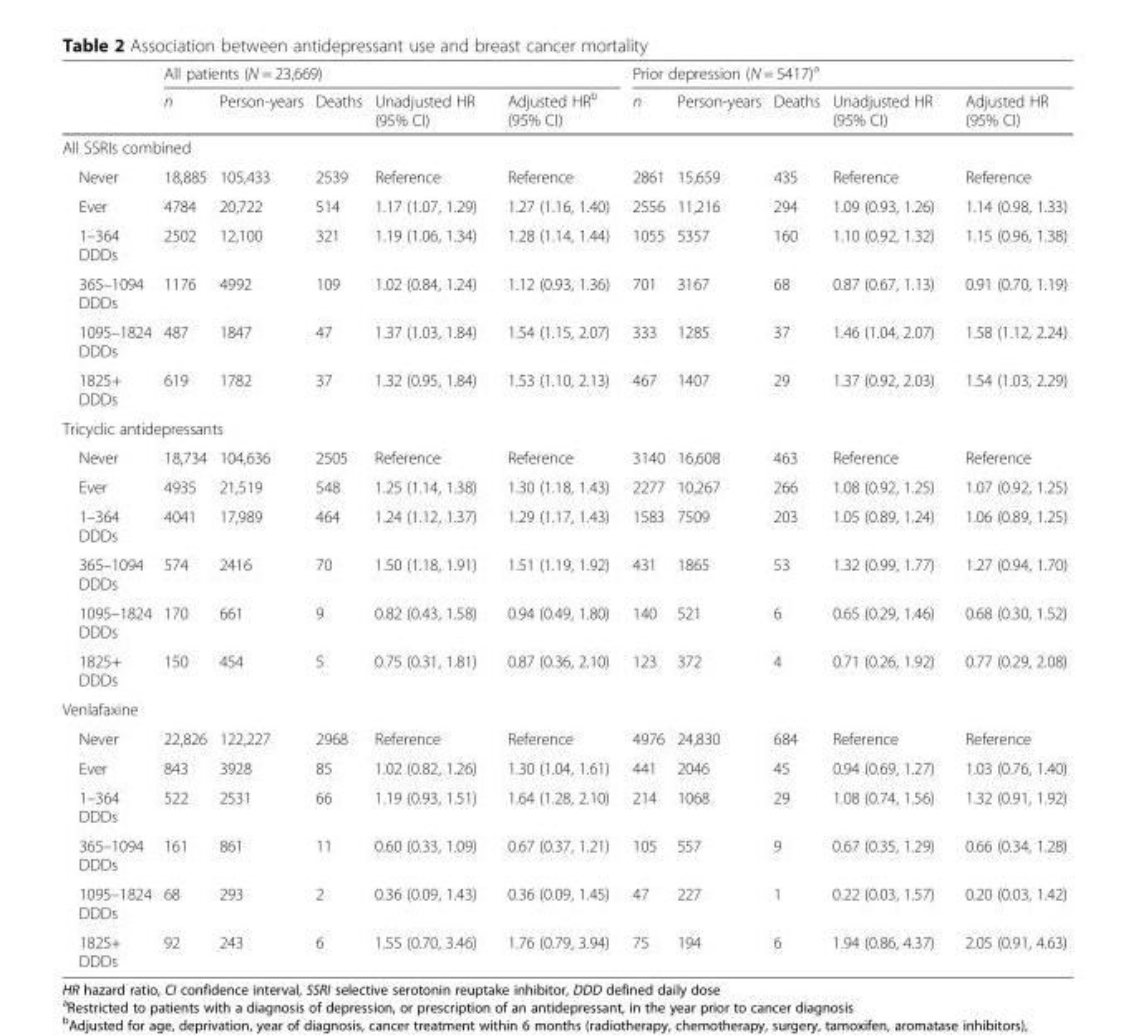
<table><thead><tr><td rowspan="2"></td><td colspan="5">All patients (N = 23,669)</td><td colspan="5">Prior depression (N = 5417)<sup>a</sup></td></tr><tr><td>n</td><td>Person-years</td><td>Deaths</td><td>Unadjusted HR (95% CI)</td><td>Adjusted HR<sup>b</sup> (95% CI)</td><td>n</td><td>Person-years</td><td>Deaths</td><td>Unadjusted HR (95% CI)</td><td>Adjusted HR (95% CI)</td></tr></thead><tbody><tr><td colspan="11">All SSRIs combined</td></tr><tr><td>Never</td><td>18,885</td><td>105,433</td><td>2539</td><td>Reference</td><td>Reference</td><td>2861</td><td>15,659</td><td>435</td><td>Reference</td><td>Reference</td></tr><tr><td>Ever</td><td>4784</td><td>20,722</td><td>514</td><td>1.17 (1.07, 1.29)</td><td>1.27 (1.16, 1.40)</td><td>2556</td><td>11,216</td><td>294</td><td>1.09 (0.93, 1.26)</td><td>1.14 (0.98, 1.33)</td></tr><tr><td>1–364 DDDs</td><td>2502</td><td>12,100</td><td>321</td><td>1.19 (1.06, 1.34)</td><td>1.28 (1.14, 1.44)</td><td>1055</td><td>5357</td><td>160</td><td>1.10 (0.92, 1.32)</td><td>1.15 (0.96, 1.38)</td></tr><tr><td>365–1094 DDDs</td><td>1176</td><td>4992</td><td>109</td><td>1.02 (0.84, 1.24)</td><td>1.12 (0.93, 1.36)</td><td>701</td><td>3167</td><td>68</td><td>0.87 (0.67, 1.13)</td><td>0.91 (0.70, 1.19)</td></tr><tr><td>1095–1824 DDDs</td><td>487</td><td>1847</td><td>47</td><td>1.37 (1.03, 1.84)</td><td>1.54 (1.15, 2.07)</td><td>333</td><td>1285</td><td>37</td><td>1.46 (1.04, 2.07)</td><td>1.58 (1.12, 2.24)</td></tr><tr><td>1825+ DDDs</td><td>619</td><td>1782</td><td>37</td><td>1.32 (0.95, 1.84)</td><td>1.53 (1.10, 2.13)</td><td>467</td><td>1407</td><td>29</td><td>1.37 (0.92, 2.03)</td><td>1.54 (1.03, 2.29)</td></tr><tr><td colspan="11">Tricyclic antidepressants</td></tr><tr><td>Never</td><td>18,734</td><td>104,636</td><td>2505</td><td>Reference</td><td>Reference</td><td>3140</td><td>16,608</td><td>463</td><td>Reference</td><td>Reference</td></tr><tr><td>Ever</td><td>4935</td><td>21,519</td><td>548</td><td>1.25 (1.14, 1.38)</td><td>1.30 (1.18, 1.43)</td><td>2277</td><td>10,267</td><td>266</td><td>1.08 (0.92, 1.25)</td><td>1.07 (0.92, 1.25)</td></tr><tr><td>1–364 DDDs</td><td>4041</td><td>17,989</td><td>464</td><td>1.24 (1.12, 1.37)</td><td>1.29 (1.17, 1.43)</td><td>1583</td><td>7509</td><td>203</td><td>1.05 (0.89, 1.24)</td><td>1.06 (0.89, 1.25)</td></tr><tr><td>365–1094 DDDs</td><td>574</td><td>2416</td><td>70</td><td>1.50 (1.18, 1.91)</td><td>1.51 (1.19, 1.92)</td><td>431</td><td>1865</td><td>53</td><td>1.32 (0.99, 1.77)</td><td>1.27 (0.94, 1.70)</td></tr><tr><td>1095–1824 DDDs</td><td>170</td><td>661</td><td>9</td><td>0.82 (0.43, 1.58)</td><td>0.94 (0.49, 1.80)</td><td>140</td><td>521</td><td>6</td><td>0.65 (0.29, 1.46)</td><td>0.68 (0.30, 1.52)</td></tr><tr><td>1825+ DDDs</td><td>150</td><td>454</td><td>5</td><td>0.75 (0.31, 1.81)</td><td>0.87 (0.36, 2.10)</td><td>123</td><td>372</td><td>4</td><td>0.71 (0.26, 1.92)</td><td>0.77 (0.29, 2.08)</td></tr><tr><td colspan="11">Venlafaxine</td></tr><tr><td>Never</td><td>22,826</td><td>122,227</td><td>2968</td><td>Reference</td><td>Reference</td><td>4976</td><td>24,830</td><td>684</td><td>Reference</td><td>Reference</td></tr><tr><td>Ever</td><td>843</td><td>3928</td><td>85</td><td>1.02 (0.82, 1.26)</td><td>1.30 (1.04, 1.61)</td><td>441</td><td>2046</td><td>45</td><td>0.94 (0.69, 1.27)</td><td>1.03 (0.76, 1.40)</td></tr><tr><td>1–364 DDDs</td><td>522</td><td>2531</td><td>66</td><td>1.19 (0.93, 1.51)</td><td>1.64 (1.28, 2.10)</td><td>214</td><td>1068</td><td>29</td><td>1.08 (0.74, 1.56)</td><td>1.32 (0.91, 1.92)</td></tr><tr><td>365–1094 DDDs</td><td>161</td><td>861</td><td>11</td><td>0.60 (0.33, 1.09)</td><td>0.67 (0.37, 1.21)</td><td>105</td><td>557</td><td>9</td><td>0.67 (0.35, 1.29)</td><td>0.66 (0.34, 1.28)</td></tr><tr><td>1095–1824 DDDs</td><td>68</td><td>293</td><td>2</td><td>0.36 (0.09, 1.43)</td><td>0.36 (0.09, 1.45)</td><td>47</td><td>227</td><td>1</td><td>0.22 (0.03, 1.57)</td><td>0.20 (0.03, 1.42)</td></tr><tr><td>1825+ DDDs</td><td>92</td><td>243</td><td>6</td><td>1.55 (0.70, 3.46)</td><td>1.76 (0.79, 3.94)</td><td>75</td><td>194</td><td>6</td><td>1.94 (0.86, 4.37)</td><td>2.05 (0.91, 4.63)</td></tr></tbody></table>